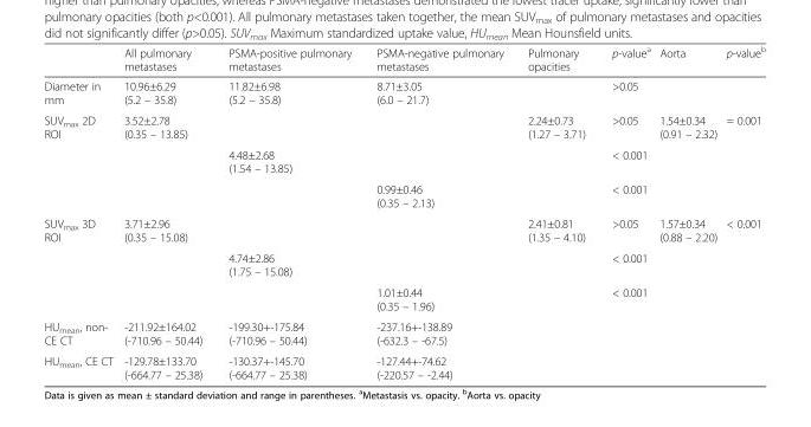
<table><thead><tr><td></td><td>All pulmonary metastases</td><td>PSMA-positive pulmonary metastases</td><td>PSMA-negative pulmonary metastases</td><td>Pulmonary opacities</td><td>p-value<sup>a</sup></td><td>Aorta</td><td>p-value<sup>b</sup></td></tr></thead><tbody><tr><td>Diameter in mm</td><td>10.96±6.29 (5.2 – 35.8)</td><td>11.82±6.98 (5.2 – 35.8)</td><td>8.71±3.05 (6.0 – 21.7)</td><td></td><td>&gt;0.05</td><td></td><td></td></tr><tr><td rowspan="3">SUV<sub>max</sub> 2D ROI</td><td>3.52±2.78 (0.35 – 13.85)</td><td></td><td></td><td rowspan="3">2.24±0.73 (1.27 – 3.71)</td><td>&gt;0.05</td><td rowspan="3">1.54±0.34 (0.91 – 2.32)</td><td rowspan="3">= 0.001</td></tr><tr><td></td><td>4.48±2.68 (1.54 – 13.85)</td><td></td><td>&lt; 0.001</td></tr><tr><td></td><td></td><td>0.99±0.46 (0.35 – 2.13)</td><td>&lt; 0.001</td></tr><tr><td rowspan="3">SUV<sub>max</sub> 3D ROI</td><td>3.71±2.96 (0.35 – 15.08)</td><td></td><td></td><td rowspan="3">2.41±0.81 (1.35 – 4.10)</td><td>&gt;0.05</td><td rowspan="3">1.57±0.34 (0.88 – 2.20)</td><td rowspan="3">&lt; 0.001</td></tr><tr><td></td><td>4.74±2.86 (1.75 – 15.08)</td><td></td><td>&lt; 0.001</td></tr><tr><td></td><td></td><td>1.01±0.44 (0.35 – 1.96)</td><td>&lt; 0.001</td></tr><tr><td>HU<sub>mean</sub>, non- CE CT</td><td>-211.92±164.02 (-710.96 – 50.44)</td><td>-199.30+-175.84 (-710.96 – 50.44)</td><td>-237.16+-138.89 (-632.3 – -67.5)</td><td></td><td></td><td></td><td></td></tr><tr><td>HU<sub>mean</sub>, CE CT</td><td>-129.78±133.70 (-664.77 – 25.38)</td><td>-130.37+-145.70 (-664.77 – 25.38)</td><td>-127.44+-74.62 (-220.57 – -2.44)</td><td></td><td></td><td></td><td></td></tr></tbody></table>